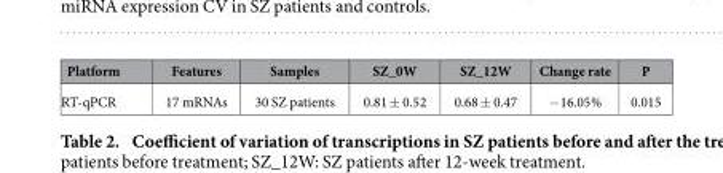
<table><thead><tr><td>Platform</td><td>Features</td><td>Samples</td><td>SZ_0W</td><td>SZ_12W</td><td>Change rate</td><td>P</td></tr></thead><tbody><tr><td>RT-qPCR</td><td>17 mRNAs</td><td>30 SZ patients</td><td>0.81 ± 0.52</td><td>0.68 ± 0.47</td><td>−16.05%</td><td>0.015</td></tr></tbody></table>